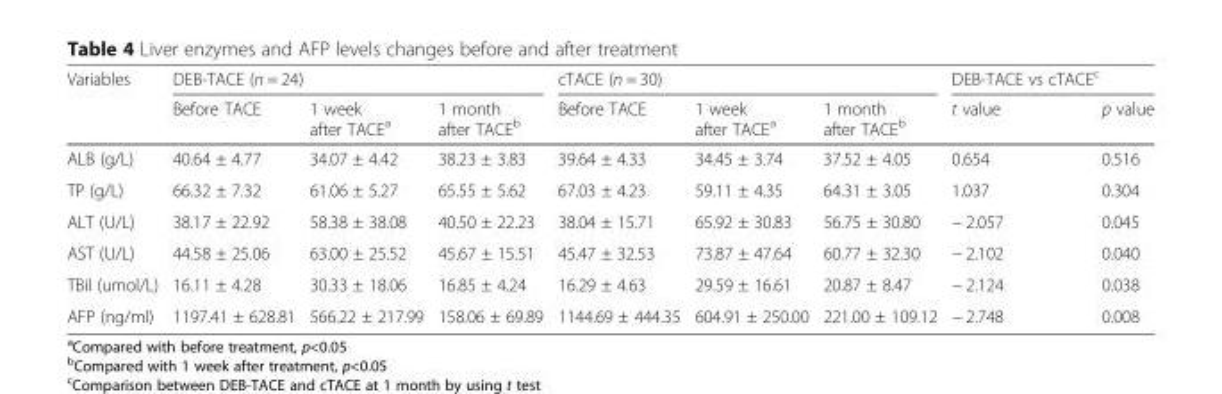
<table><thead><tr><td rowspan="2">Variables</td><td colspan="3">DEB-TACE (n = 24)</td><td colspan="3">cTACE (n = 30)</td><td colspan="2">DEB-TACE vs cTACE<sup>c</sup></td></tr><tr><td>Before TACE</td><td>1 week after TACE<sup>a</sup></td><td>1 month after TACE<sup>b</sup></td><td>Before TACE</td><td>1 week after TACE<sup>a</sup></td><td>1 month after TACE<sup>b</sup></td><td>t value</td><td>p value</td></tr></thead><tbody><tr><td>ALB (g/L)</td><td>40.64 ± 4.77</td><td>34.07 ± 4.42</td><td>38.23 ± 3.83</td><td>39.64 ± 4.33</td><td>34.45 ± 3.74</td><td>37.52 ± 4.05</td><td>0.654</td><td>0.516</td></tr><tr><td>TP (g/L)</td><td>66.32 ± 7.32</td><td>61.06 ± 5.27</td><td>65.55 ± 5.62</td><td>67.03 ± 4.23</td><td>59.11 ± 4.35</td><td>64.31 ± 3.05</td><td>1.037</td><td>0.304</td></tr><tr><td>ALT (U/L)</td><td>38.17 ± 22.92</td><td>58.38 ± 38.08</td><td>40.50 ± 22.23</td><td>38.04 ± 15.71</td><td>65.92 ± 30.83</td><td>56.75 ± 30.80</td><td>− 2.057</td><td>0.045</td></tr><tr><td>AST (U/L)</td><td>44.58 ± 25.06</td><td>63.00 ± 25.52</td><td>45.67 ± 15.51</td><td>45.47 ± 32.53</td><td>73.87 ± 47.64</td><td>60.77 ± 32.30</td><td>− 2.102</td><td>0.040</td></tr><tr><td>TBil (umol/L)</td><td>16.11 ± 4.28</td><td>30.33 ± 18.06</td><td>16.85 ± 4.24</td><td>16.29 ± 4.63</td><td>29.59 ± 16.61</td><td>20.87 ± 8.47</td><td>− 2.124</td><td>0.038</td></tr><tr><td>AFP (ng/ml)</td><td>1197.41 ± 628.81</td><td>566.22 ± 217.99</td><td>158.06 ± 69.89</td><td>1144.69 ± 444.35</td><td>604.91 ± 250.00</td><td>221.00 ± 109.12</td><td>− 2.748</td><td>0.008</td></tr></tbody></table>